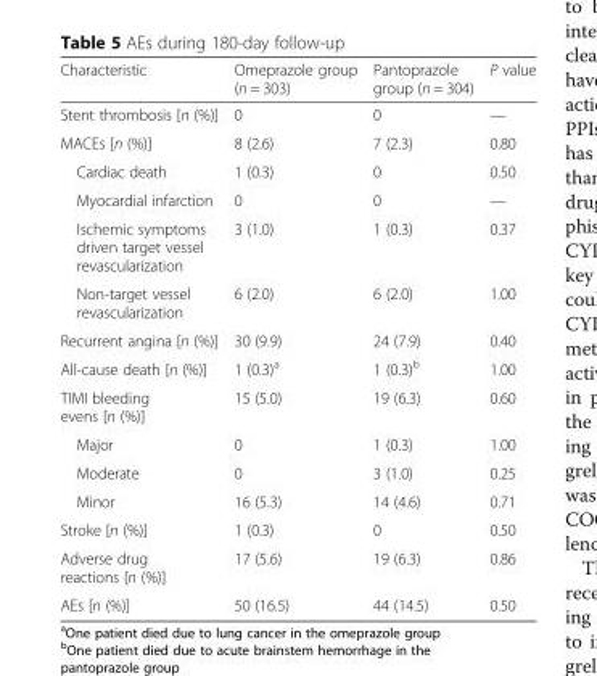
<table><thead><tr><td>Characteristic</td><td>Omeprazole group (n = 303)</td><td>Pantoprazole group (n = 304)</td><td>P value</td></tr></thead><tbody><tr><td>Stent thrombosis [n (%)]</td><td>0</td><td>0</td><td>—</td></tr><tr><td>MACEs [n (%)]</td><td>8 (2.6)</td><td>7 (2.3)</td><td>0.80</td></tr><tr><td>Cardiac death</td><td>1 (0.3)</td><td>0</td><td>0.50</td></tr><tr><td>Myocardial infarction</td><td>0</td><td>0</td><td>—</td></tr><tr><td>Ischemic symptoms driven target vessel revascularization</td><td>3 (1.0)</td><td>1 (0.3)</td><td>0.37</td></tr><tr><td>Non-target vessel revascularization</td><td>6 (2.0)</td><td>6 (2.0)</td><td>1.00</td></tr><tr><td>Recurrent angina [n (%)]</td><td>30 (9.9)</td><td>24 (7.9)</td><td>0.40</td></tr><tr><td>All-cause death [n (%)]</td><td>1 (0.3)<sup>a</sup></td><td>1 (0.3)<sup>b</sup></td><td>1.00</td></tr><tr><td>TIMI bleeding evens [n (%)]</td><td>15 (5.0)</td><td>19 (6.3)</td><td>0.60</td></tr><tr><td>Major</td><td>0</td><td>1 (0.3)</td><td>1.00</td></tr><tr><td>Moderate</td><td>0</td><td>3 (1.0)</td><td>0.25</td></tr><tr><td>Minor</td><td>16 (5.3)</td><td>14 (4.6)</td><td>0.71</td></tr><tr><td>Stroke [n (%)]</td><td>1 (0.3)</td><td>0</td><td>0.50</td></tr><tr><td>Adverse drug reactions [n (%)]</td><td>17 (5.6)</td><td>19 (6.3)</td><td>0.86</td></tr><tr><td>AEs [n (%)]</td><td>50 (16.5)</td><td>44 (14.5)</td><td>0.50</td></tr></tbody></table>